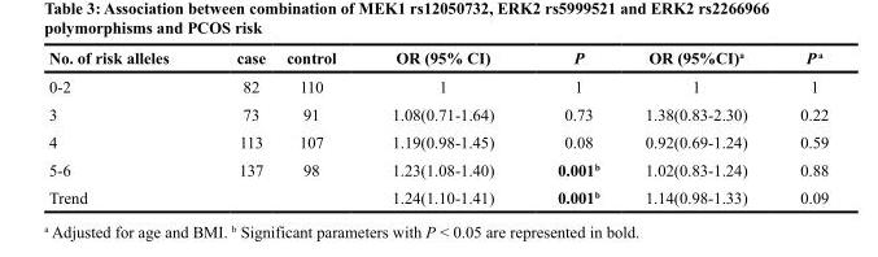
<table><thead><tr><td>No. of risk alleles</td><td>case</td><td>control</td><td>OR (95% CI)</td><td>P</td><td>OR (95%CI)<sup>a</sup></td><td>P <sup>a</sup></td></tr></thead><tbody><tr><td>0-2</td><td>82</td><td>110</td><td>1</td><td>1</td><td>1</td><td>1</td></tr><tr><td>3</td><td>73</td><td>91</td><td>1.08(0.71-1.64)</td><td>0.73</td><td>1.38(0.83-2.30)</td><td>0.22</td></tr><tr><td>4</td><td>113</td><td>107</td><td>1.19(0.98-1.45)</td><td>0.08</td><td>0.92(0.69-1.24)</td><td>0.59</td></tr><tr><td>5-6</td><td>137</td><td>98</td><td>1.23(1.08-1.40)</td><td>0.001<sup>b</sup></td><td>1.02(0.83-1.24)</td><td>0.88</td></tr><tr><td>Trend</td><td></td><td></td><td>1.24(1.10-1.41)</td><td>0.001<sup>b</sup></td><td>1.14(0.98-1.33)</td><td>0.09</td></tr></tbody></table>